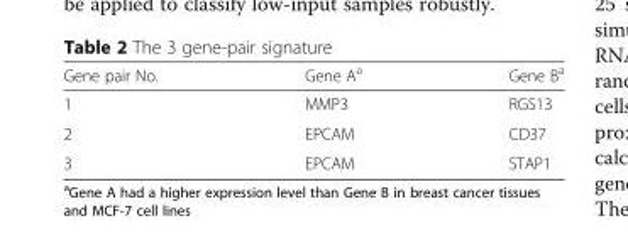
<table><thead><tr><td>Gene pair No.</td><td>Gene A<sup>a</sup></td><td>Gene B<sup>a</sup></td></tr></thead><tbody><tr><td>1</td><td>MMP3</td><td>RGS13</td></tr><tr><td>2</td><td>EPCAM</td><td>CD37</td></tr><tr><td>3</td><td>EPCAM</td><td>STAP1</td></tr></tbody></table>